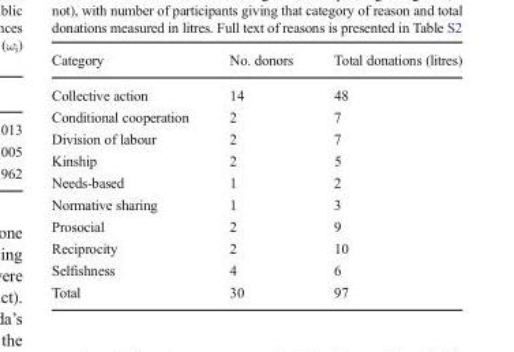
<table><thead><tr><td>Category</td><td>No. donors</td><td>Total donations (litres)</td></tr></thead><tbody><tr><td>Collective action</td><td>14</td><td>48</td></tr><tr><td>Conditional cooperation</td><td>2</td><td>7</td></tr><tr><td>Division of labour</td><td>2</td><td>7</td></tr><tr><td>Kinship</td><td>2</td><td>5</td></tr><tr><td>Needs-based</td><td>1</td><td>2</td></tr><tr><td>Normative sharing</td><td>1</td><td>3</td></tr><tr><td>Prosocial</td><td>2</td><td>9</td></tr><tr><td>Reciprocity</td><td>2</td><td>10</td></tr><tr><td>Selfishness</td><td>4</td><td>6</td></tr><tr><td>Total</td><td>30</td><td>97</td></tr></tbody></table>